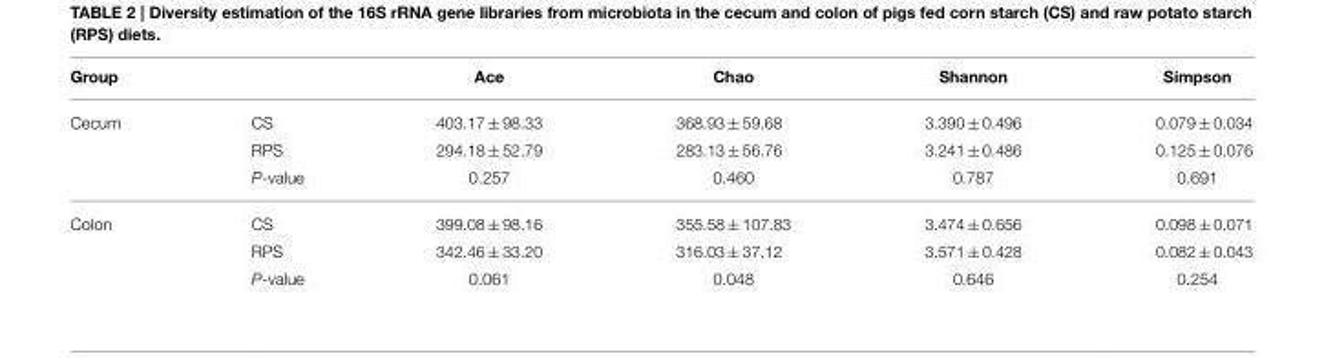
<table><thead><tr><td>Group</td><td></td><td>Ace</td><td>Chao</td><td>Shannon</td><td>Simpson</td></tr></thead><tbody><tr><td rowspan="3">Cecum</td><td>CS</td><td>403.17 ± 98.33</td><td>368.93 ± 59.68</td><td>3.390 ± 0.496</td><td>0.079 ± 0.034</td></tr><tr><td>RPS</td><td>294.18 ± 52.79</td><td>283.13 ± 56.76</td><td>3.241 ± 0.486</td><td>0.125 ± 0.076</td></tr><tr><td>P-value</td><td>0.257</td><td>0.460</td><td>0.787</td><td>0.691</td></tr><tr><td rowspan="3">Colon</td><td>CS</td><td>399.08 ± 98.16</td><td>355.58 ± 107.83</td><td>3.474 ± 0.656</td><td>0.098 ± 0.071</td></tr><tr><td>RPS</td><td>342.46 ± 33.20</td><td>316.03 ± 37.12</td><td>3.571 ± 0.428</td><td>0.082 ± 0.043</td></tr><tr><td>P-value</td><td>0.061</td><td>0.048</td><td>0.646</td><td>0.254</td></tr></tbody></table>